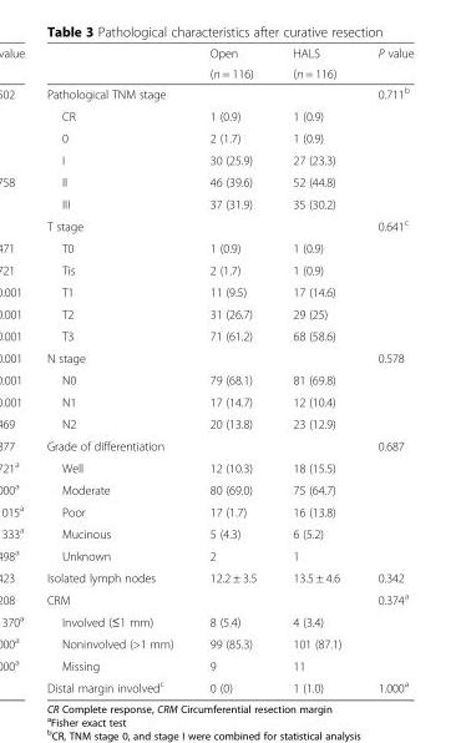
<table><thead><tr><td rowspan="2"></td><td rowspan="2">Open (n = 116)</td><td rowspan="2">HALS (n = 116)</td><td rowspan="2">P value</td></tr><tr></tr></thead><tbody><tr><td>Pathological TNM stage</td><td></td><td></td><td>0.711<sup>b</sup></td></tr><tr><td>CR</td><td>1 (0.9)</td><td>1 (0.9)</td><td></td></tr><tr><td>0</td><td>2 (1.7)</td><td>1 (0.9)</td><td></td></tr><tr><td>I</td><td>30 (25.9)</td><td>27 (23.3)</td><td></td></tr><tr><td>II</td><td>46 (39.6)</td><td>52 (44.8)</td><td></td></tr><tr><td>III</td><td>37 (31.9)</td><td>35 (30.2)</td><td></td></tr><tr><td>T stage</td><td></td><td></td><td>0.641<sup>c</sup></td></tr><tr><td>T0</td><td>1 (0.9)</td><td>1 (0.9)</td><td></td></tr><tr><td>Tis</td><td>2 (1.7)</td><td>1 (0.9)</td><td></td></tr><tr><td>T1</td><td>11 (9.5)</td><td>17 (14.6)</td><td></td></tr><tr><td>T2</td><td>31 (26.7)</td><td>29 (25)</td><td></td></tr><tr><td>T3</td><td>71 (61.2)</td><td>68 (58.6)</td><td></td></tr><tr><td>N stage</td><td></td><td></td><td>0.578</td></tr><tr><td>N0</td><td>79 (68.1)</td><td>81 (69.8)</td><td></td></tr><tr><td>N1</td><td>17 (14.7)</td><td>12 (10.4)</td><td></td></tr><tr><td>N2</td><td>20 (13.8)</td><td>23 (12.9)</td><td></td></tr><tr><td>Grade of differentiation</td><td></td><td></td><td>0.687</td></tr><tr><td>Well</td><td>12 (10.3)</td><td>18 (15.5)</td><td></td></tr><tr><td>Moderate</td><td>80 (69.0)</td><td>75 (64.7)</td><td></td></tr><tr><td>Poor</td><td>17 (1.7)</td><td>16 (13.8)</td><td></td></tr><tr><td>Mucinous</td><td>5 (4.3)</td><td>6 (5.2)</td><td></td></tr><tr><td>Unknown</td><td>2</td><td>1</td><td></td></tr><tr><td>Isolated lymph nodes</td><td>12.2 ± 3.5</td><td>13.5 ± 4.6</td><td>0.342</td></tr><tr><td>CRM</td><td></td><td></td><td>0.374<sup>a</sup></td></tr><tr><td>Involved (≤1 mm)</td><td>8 (5.4)</td><td>4 (3.4)</td><td></td></tr><tr><td>Noninvolved (&gt;1 mm)</td><td>99 (85.3)</td><td>101 (87.1)</td><td></td></tr><tr><td>Missing</td><td>9</td><td>11</td><td></td></tr><tr><td>Distal margin involved<sup>c</sup></td><td>0 (0)</td><td>1 (1.0)</td><td>1.000<sup>a</sup></td></tr></tbody></table>